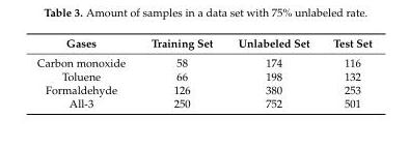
<table><thead><tr><td>Gases</td><td>Training Set</td><td>Unlabeled Set</td><td>Test Set</td></tr></thead><tbody><tr><td>Carbon monoxide</td><td>58</td><td>174</td><td>116</td></tr><tr><td>Toluene</td><td>66</td><td>198</td><td>132</td></tr><tr><td>Formaldehyde</td><td>126</td><td>380</td><td>253</td></tr><tr><td>All-3</td><td>250</td><td>752</td><td>501</td></tr></tbody></table>